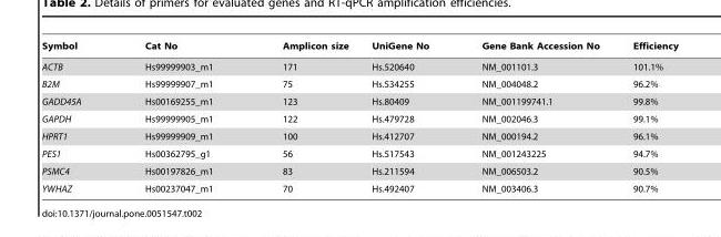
<table><thead><tr><td>Symbol</td><td>Cat No</td><td>Amplicon size</td><td>UniGene No</td><td>Gene Bank Accession No</td><td>Efficiency</td></tr></thead><tbody><tr><td>ACTB</td><td>Hs99999903_m1</td><td>171</td><td>Hs.520640</td><td>NM_001101.3</td><td>101.1%</td></tr><tr><td>B2M</td><td>Hs99999907_m1</td><td>75</td><td>Hs.534255</td><td>NM_004048.2</td><td>96.2%</td></tr><tr><td>GADD45A</td><td>Hs00169255_m1</td><td>123</td><td>Hs.80409</td><td>NM_001199741.1</td><td>99.8%</td></tr><tr><td>GAPDH</td><td>Hs99999905_m1</td><td>122</td><td>Hs.479728</td><td>NM_002046.3</td><td>99.1%</td></tr><tr><td>HPRT1</td><td>Hs99999909_m1</td><td>100</td><td>Hs.412707</td><td>NM_000194.2</td><td>96.1%</td></tr><tr><td>PES1</td><td>Hs00362795_g1</td><td>56</td><td>Hs.517543</td><td>NM_001243225</td><td>94.7%</td></tr><tr><td>PSMC4</td><td>Hs00197826_m1</td><td>83</td><td>Hs.211594</td><td>NM_006503.2</td><td>90.5%</td></tr><tr><td>YWHAZ</td><td>Hs00237047_m1</td><td>70</td><td>Hs.492407</td><td>NM_003406.3</td><td>90.7%</td></tr></tbody></table>